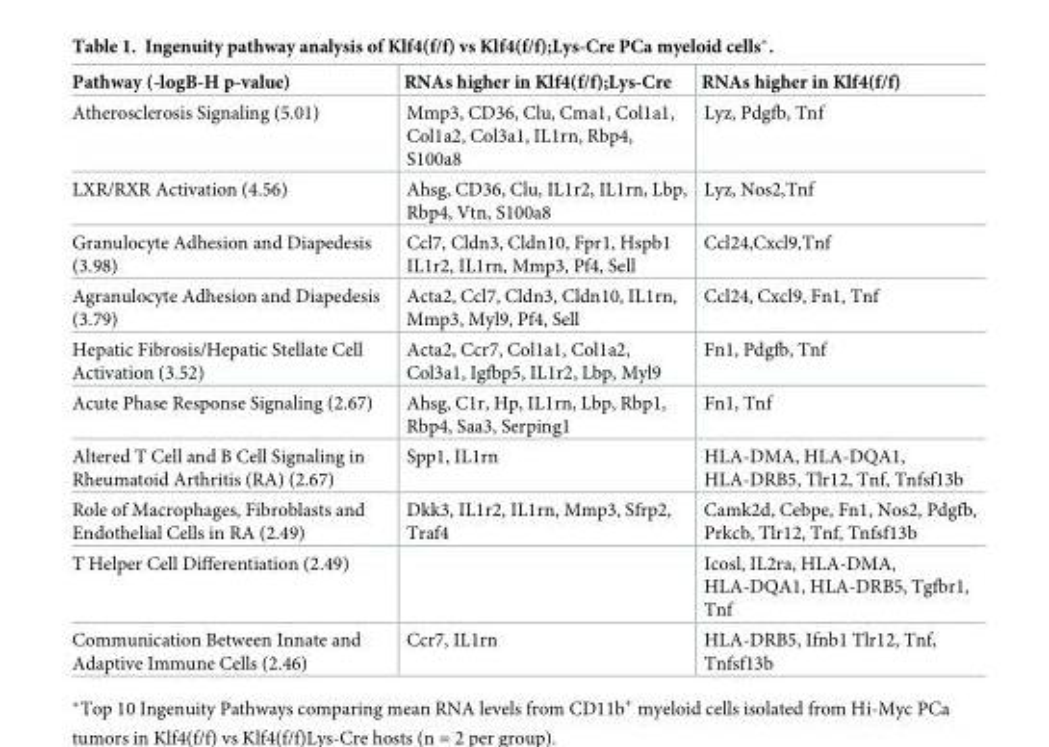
<table><thead><tr><td>Pathway (-logB-H p-value)</td><td>RNAs higher in Klf4(f/f);Lys-Cre</td><td>RNAs higher in Klf4(f/f)</td></tr></thead><tbody><tr><td>Atherosclerosis Signaling (5.01)</td><td>Mmp3, CD36, Clu, Cma1, Col1a1, Col1a2, Col3a1, IL1rn, Rbp4, S100a8</td><td>Lyz, Pdgfb, Tnf</td></tr><tr><td>LXR/RXR Activation (4.56)</td><td>Ahsg, CD36, Clu, IL1r2, IL1rn, Lbp, Rbp4, Vtn, S100a8</td><td>Lyz, Nos2,Tnf</td></tr><tr><td>Granulocyte Adhesion and Diapedesis (3.98)</td><td>Ccl7, Cldn3, Cldn10, Fpr1, Hspb1 IL1r2, IL1rn, Mmp3, Pf4, Sell</td><td>Ccl24,Cxcl9,Tnf</td></tr><tr><td>Agranulocyte Adhesion and Diapedesis (3.79)</td><td>Acta2, Ccl7, Cldn3, Cldn10, IL1rn, Mmp3, Myl9, Pf4, Sell</td><td>Ccl24, Cxcl9, Fn1, Tnf</td></tr><tr><td>Hepatic Fibrosis/Hepatic Stellate Cell Activation (3.52)</td><td>Acta2, Ccr7, Col1a1, Col1a2, Col3a1, Igfbp5, IL1r2, Lbp, Myl9</td><td>Fn1, Pdgfb, Tnf</td></tr><tr><td>Acute Phase Response Signaling (2.67)</td><td>Ahsg, C1r, Hp, IL1rn, Lbp, Rbp1, Rbp4, Saa3, Serping1</td><td>Fn1, Tnf</td></tr><tr><td>Altered T Cell and B Cell Signaling in Rheumatoid Arthritis (RA) (2.67)</td><td>Spp1, IL1rn</td><td>HLA-DMA, HLA-DQA1, HLA-DRB5, Tlr12, Tnf, Tnfsf13b</td></tr><tr><td>Role of Macrophages, Fibroblasts and Endothelial Cells in RA (2.49)</td><td>Dkk3, IL1r2, IL1rn, Mmp3, Sfrp2, Traf4</td><td>Camk2d, Cebpe, Fn1, Nos2, Pdgfb, Prkcb, Tlr12, Tnf, Tnfsf13b</td></tr><tr><td>T Helper Cell Differentiation (2.49)</td><td></td><td>Icosl, IL2ra, HLA-DMA, HLA-DQA1, HLA-DRB5, Tgfbr1, Tnf</td></tr><tr><td>Communication Between Innate and Adaptive Immune Cells (2.46)</td><td>Ccr7, IL1rn</td><td>HLA-DRB5, Ifnb1 Tlr12, Tnf, Tnfsf13b</td></tr></tbody></table>